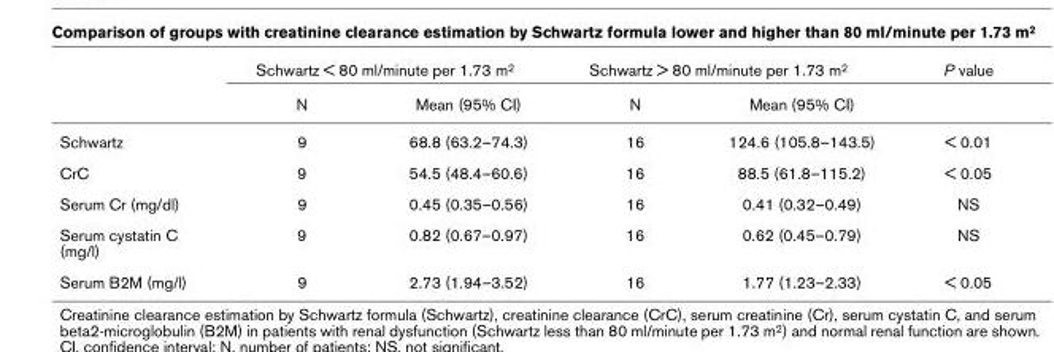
<table><thead><tr><td rowspan="2"></td><td colspan="2">Schwartz &lt; 80 ml/minute per 1.73 m<sup>2</sup></td><td colspan="2">Schwartz &gt; 80 ml/minute per 1.73 m<sup>2</sup></td><td rowspan="2">P value</td></tr><tr><td>N</td><td>Mean (95% CI)</td><td>N</td><td>Mean (95% CI)</td></tr></thead><tbody><tr><td>Schwartz</td><td>9</td><td>68.8 (63.2–74.3)</td><td>16</td><td>124.6 (105.8–143.5)</td><td>&lt; 0.01</td></tr><tr><td>CrC</td><td>9</td><td>54.5 (48.4–60.6)</td><td>16</td><td>88.5 (61.8–115.2)</td><td>&lt; 0.05</td></tr><tr><td>Serum Cr (mg/dl)</td><td>9</td><td>0.45 (0.35–0.56)</td><td>16</td><td>0.41 (0.32–0.49)</td><td>NS</td></tr><tr><td>Serum cystatin C (mg/l)</td><td>9</td><td>0.82 (0.67–0.97)</td><td>16</td><td>0.62 (0.45–0.79)</td><td>NS</td></tr><tr><td>Serum B2M (mg/l)</td><td>9</td><td>2.73 (1.94–3.52)</td><td>16</td><td>1.77 (1.23–2.33)</td><td>&lt; 0.05</td></tr></tbody></table>